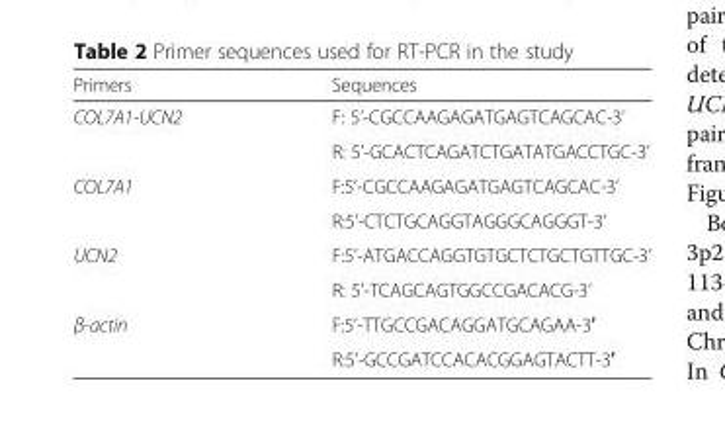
<table><thead><tr><td>Primers</td><td>Sequences</td></tr></thead><tbody><tr><td rowspan="2">COL7A1-UCN2</td><td>F: 5’-CGCCAAGAGATGAGTCAGCAC-3’</td></tr><tr><td>R: 5’-GCACTCAGATCTGATATGACCTGC-3’</td></tr><tr><td rowspan="2">COL7A1</td><td>F:5’-CGCCAAGAGATGAGTCAGCAC-3’</td></tr><tr><td>R:5’-CTCTGCAGGTAGGGCAGGGT-3’</td></tr><tr><td rowspan="2">UCN2</td><td>F:5’-ATGACCAGGTGTGCTCTGCTGTTGC-3’</td></tr><tr><td>R: 5’-TCAGCAGTGGCCGACACG-3’</td></tr><tr><td rowspan="2">β-actin</td><td>F:5’-TTGCCGACAGGATGCAGAA-3′</td></tr><tr><td>R:5’-GCCGATCCACACGGAGTACTT-3′</td></tr></tbody></table>